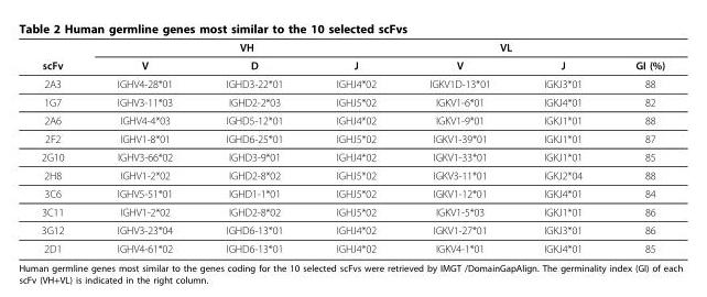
<table><thead><tr><td rowspan="2">scFv</td><td colspan="3">VH</td><td colspan="2">VL</td><td rowspan="2">GI (%)</td></tr><tr><td>V</td><td>D</td><td>J</td><td>V</td><td>J</td></tr></thead><tbody><tr><td>2A3</td><td>IGHV4-28*01</td><td>IGHD3-22*01</td><td>IGHJ4*02</td><td>IGKV1D-13*01</td><td>IGKJ3*01</td><td>88</td></tr><tr><td>1G7</td><td>IGHV3-11*03</td><td>IGHD2-2*03</td><td>IGHJ5*02</td><td>IGKV1-6*01</td><td>IGKJ4*01</td><td>82</td></tr><tr><td>2A6</td><td>IGHV4-4*03</td><td>IGHD5-12*01</td><td>IGHJ4*02</td><td>IGKV1-9*01</td><td>IGKJ1*01</td><td>88</td></tr><tr><td>2F2</td><td>IGHV1-8*01</td><td>IGHD6-25*01</td><td>IGHJ5*02</td><td>IGKV1-39*01</td><td>IGKJ1*01</td><td>87</td></tr><tr><td>2G10</td><td>IGHV3-66*02</td><td>IGHD3-9*01</td><td>IGHJ4*02</td><td>IGKV1-33*01</td><td>IGKJ1*01</td><td>85</td></tr><tr><td>2H8</td><td>IGHV1-2*02</td><td>IGHD2-8*02</td><td>IGHJ5*02</td><td>IGKV3-11*01</td><td>IGKJ2*04</td><td>88</td></tr><tr><td>3C6</td><td>IGHV5-51*01</td><td>IGHD1-1*01</td><td>IGHJ5*02</td><td>IGKV1-12*01</td><td>IGKJ4*01</td><td>84</td></tr><tr><td>3C11</td><td>IGHV1-2*02</td><td>IGHD2-8*02</td><td>IGHJ5*02</td><td>IGKV1-5*03</td><td>IGKJ1*01</td><td>86</td></tr><tr><td>3G12</td><td>IGHV3-23*04</td><td>IGHD6-13*01</td><td>IGHJ4*02</td><td>IGKV1-27*01</td><td>IGKJ3*01</td><td>86</td></tr><tr><td>2D1</td><td>IGHV4-61*02</td><td>IGHD6-13*01</td><td>IGHJ4*02</td><td>IGKV4-1*01</td><td>IGKJ4*01</td><td>85</td></tr></tbody></table>